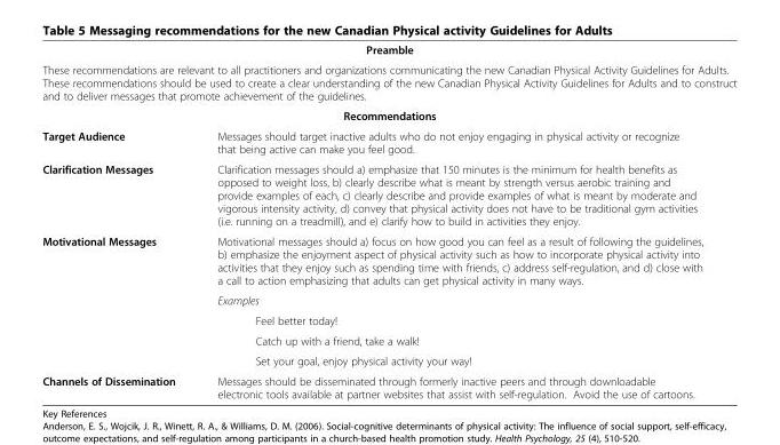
<table><tbody><tr><td colspan="2">Preamble</td></tr><tr><td colspan="2">These recommendations are relevant to all practitioners and organizations communicating the new Canadian Physical Activity Guidelines for Adults. These recommendations should be used to create a clear understanding of the new Canadian Physical Activity Guidelines for Adults and to construct and to deliver messages that promote achievement of the guidelines.</td></tr><tr><td colspan="2">Recommendations</td></tr><tr><td>Target Audience</td><td>Messages should target inactive adults who do not enjoy engaging in physical activity or recognize that being active can make you feel good.</td></tr><tr><td>Clarification Messages</td><td>Clarification messages should a) emphasize that 150 minutes is the minimum for health benefits as opposed to weight loss, b) clearly describe what is meant by strength versus aerobic training and provide examples of each, c) clearly describe and provide examples of what is meant by moderate and vigorous intensity activity, d) convey that physical activity does not have to be traditional gym activities (i.e. running on a treadmill), and e) clarify how to build in activities they enjoy.</td></tr><tr><td rowspan="5">Motivational Messages</td><td>Motivational messages should a) focus on how good you can feel as a result of following the guidelines, b) emphasize the enjoyment aspect of physical activity such as how to incorporate physical activity into activities that they enjoy such as spending time with friends, c) address self-regulation, and d) close with a call to action emphasizing that adults can get physical activity in many ways.</td></tr><tr><td>Examples</td></tr><tr><td>Feel better today!</td></tr><tr><td>Catch up with a friend, take a walk!</td></tr><tr><td>Set your goal, enjoy physical activity your way!</td></tr><tr><td>Channels of Dissemination</td><td>Messages should be disseminated through formerly inactive peers and through downloadable electronic tools available at partner websites that assist with self-regulation. Avoid the use of cartoons.</td></tr></tbody></table>